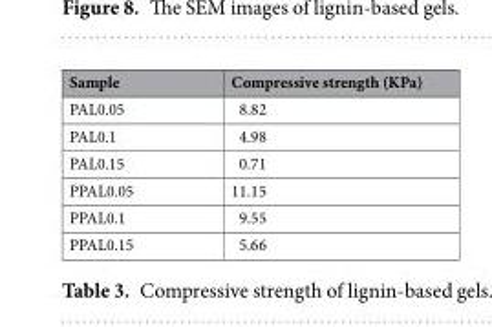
<table><thead><tr><td>Sample</td><td>Compressive strength (KPa)</td></tr></thead><tbody><tr><td>PAL0.05</td><td>8.82</td></tr><tr><td>PAL0.1</td><td>4.98</td></tr><tr><td>PAL0.15</td><td>0.71</td></tr><tr><td>PPAL0.05</td><td>11.15</td></tr><tr><td>PPAL0.1</td><td>9.55</td></tr><tr><td>PPAL0.15</td><td>5.66</td></tr></tbody></table>